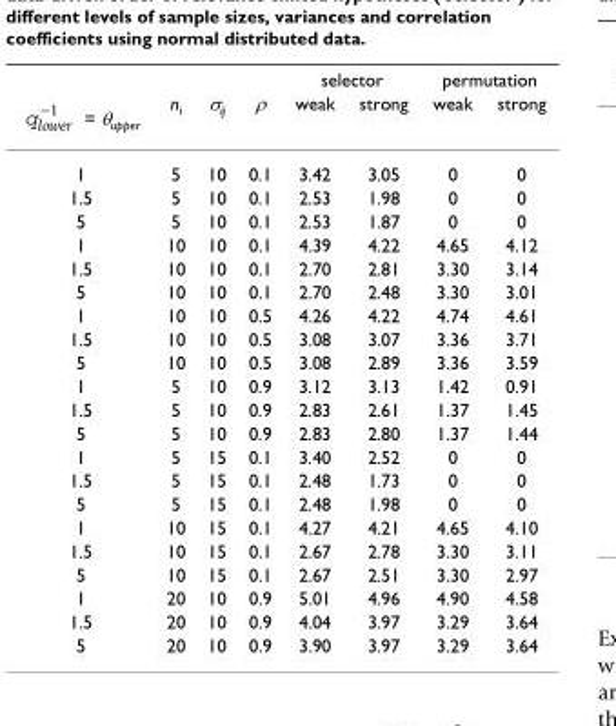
<table><thead><tr><td rowspan="2">= θupper</td><td rowspan="2">n<sub>i</sub></td><td rowspan="2">σ<sub>ij</sub></td><td rowspan="2">ρ</td><td colspan="2">selector</td><td colspan="2">permutation</td></tr><tr><td>weak</td><td>strong</td><td>weak</td><td>strong</td></tr></thead><tbody><tr><td>1</td><td>5</td><td>10</td><td>0.1</td><td>3.42</td><td>3.05</td><td>0</td><td>0</td></tr><tr><td>1.5</td><td>5</td><td>10</td><td>0.1</td><td>2.53</td><td>1.98</td><td>0</td><td>0</td></tr><tr><td>5</td><td>5</td><td>10</td><td>0.1</td><td>2.53</td><td>1.87</td><td>0</td><td>0</td></tr><tr><td>1</td><td>10</td><td>10</td><td>0.1</td><td>4.39</td><td>4.22</td><td>4.65</td><td>4.12</td></tr><tr><td>1.5</td><td>10</td><td>10</td><td>0.1</td><td>2.70</td><td>2.81</td><td>3.30</td><td>3.14</td></tr><tr><td>5</td><td>10</td><td>10</td><td>0.1</td><td>2.70</td><td>2.48</td><td>3.30</td><td>3.01</td></tr><tr><td>1</td><td>10</td><td>10</td><td>0.5</td><td>4.26</td><td>4.22</td><td>4.74</td><td>4.61</td></tr><tr><td>1.5</td><td>10</td><td>10</td><td>0.5</td><td>3.08</td><td>3.07</td><td>3.36</td><td>3.71</td></tr><tr><td>5</td><td>10</td><td>10</td><td>0.5</td><td>3.08</td><td>2.89</td><td>3.36</td><td>3.59</td></tr><tr><td>1</td><td>5</td><td>10</td><td>0.9</td><td>3.12</td><td>3.13</td><td>1.42</td><td>0.91</td></tr><tr><td>1.5</td><td>5</td><td>10</td><td>0.9</td><td>2.83</td><td>2.61</td><td>1.37</td><td>1.45</td></tr><tr><td>5</td><td>5</td><td>10</td><td>0.9</td><td>2.83</td><td>2.80</td><td>1.37</td><td>1.44</td></tr><tr><td>1</td><td>5</td><td>15</td><td>0.1</td><td>3.40</td><td>2.52</td><td>0</td><td>0</td></tr><tr><td>1.5</td><td>5</td><td>15</td><td>0.1</td><td>2.48</td><td>1.73</td><td>0</td><td>0</td></tr><tr><td>5</td><td>5</td><td>15</td><td>0.1</td><td>2.48</td><td>1.98</td><td>0</td><td>0</td></tr><tr><td>1</td><td>10</td><td>15</td><td>0.1</td><td>4.27</td><td>4.21</td><td>4.65</td><td>4.10</td></tr><tr><td>1.5</td><td>10</td><td>15</td><td>0.1</td><td>2.67</td><td>2.78</td><td>3.30</td><td>3.11</td></tr><tr><td>5</td><td>10</td><td>15</td><td>0.1</td><td>2.67</td><td>2.51</td><td>3.30</td><td>2.97</td></tr><tr><td>1</td><td>20</td><td>10</td><td>0.9</td><td>5.01</td><td>4.96</td><td>4.90</td><td>4.58</td></tr><tr><td>1.5</td><td>20</td><td>10</td><td>0.9</td><td>4.04</td><td>3.97</td><td>3.29</td><td>3.64</td></tr><tr><td>5</td><td>20</td><td>10</td><td>0.9</td><td>3.90</td><td>3.97</td><td>3.29</td><td>3.64</td></tr></tbody></table>